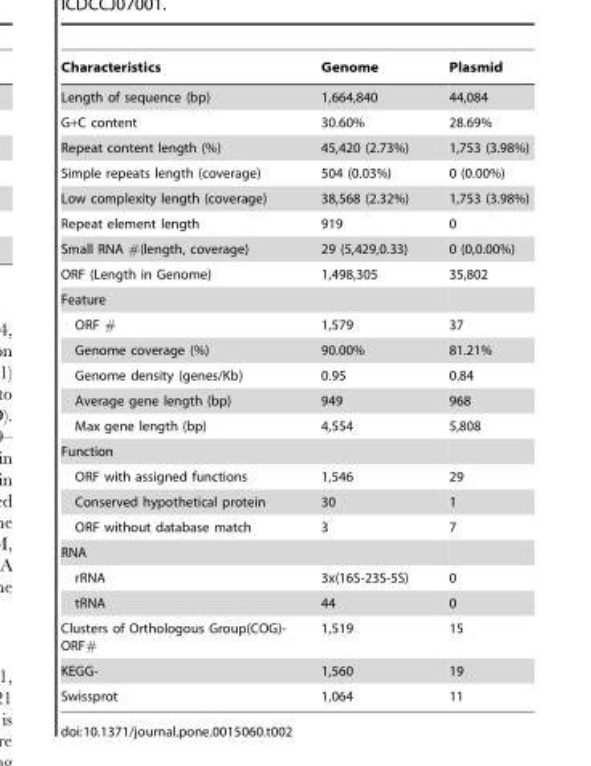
<table><thead><tr><td>Characteristics</td><td>Genome</td><td>Plasmid</td></tr></thead><tbody><tr><td>Length of sequence (bp)</td><td>1,664,840</td><td>44,084</td></tr><tr><td>G+C content</td><td>30.60%</td><td>28.69%</td></tr><tr><td>Repeat content length (%)</td><td>45,420 (2.73%)</td><td>1,753 (3.98%)</td></tr><tr><td>Simple repeats length (coverage)</td><td>504 (0.03%)</td><td>0 (0.00%)</td></tr><tr><td>Low complexity length (coverage)</td><td>38,568 (2.32%)</td><td>1,753 (3.98%)</td></tr><tr><td>Repeat element length</td><td>919</td><td>0</td></tr><tr><td>Small RNA #(length, coverage)</td><td>29 (5,429,0.33)</td><td>0 (0,0.00%)</td></tr><tr><td>ORF (Length in Genome)</td><td>1,498,305</td><td>35,802</td></tr><tr><td colspan="3">Feature</td></tr><tr><td>ORF #</td><td>1,579</td><td>37</td></tr><tr><td>Genome coverage (%)</td><td>90.00%</td><td>81.21%</td></tr><tr><td>Genome density (genes/Kb)</td><td>0.95</td><td>0.84</td></tr><tr><td>Average gene length (bp)</td><td>949</td><td>968</td></tr><tr><td>Max gene length (bp)</td><td>4,554</td><td>5,808</td></tr><tr><td colspan="3">Function</td></tr><tr><td>ORF with assigned functions</td><td>1,546</td><td>29</td></tr><tr><td>Conserved hypothetical protein</td><td>30</td><td>1</td></tr><tr><td>ORF without database match</td><td>3</td><td>7</td></tr><tr><td colspan="3">RNA</td></tr><tr><td>rRNA</td><td>3x(16S-23S-5S)</td><td>0</td></tr><tr><td>tRNA</td><td>44</td><td>0</td></tr><tr><td>Clusters of Orthologous Group(COG)- ORF#</td><td>1,519</td><td>15</td></tr><tr><td>KEGG-</td><td>1,560</td><td>19</td></tr><tr><td>Swissprot</td><td>1,064</td><td>11</td></tr></tbody></table>